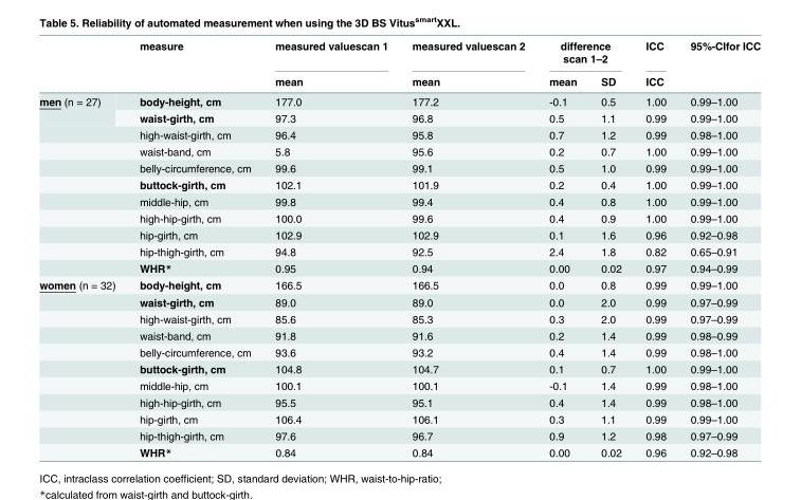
<table><thead><tr><td rowspan="2"></td><td rowspan="2">measure</td><td rowspan="2">measured valuescan 1 mean</td><td rowspan="2">measured valuescan 2 mean</td><td colspan="2">difference scan 1–2</td><td rowspan="2">ICC ICC</td><td rowspan="2">95%-CIfor ICC</td></tr><tr><td>mean</td><td>SD</td></tr></thead><tbody><tr><td rowspan="11">men (n = 27)</td><td>body-height, cm</td><td>177.0</td><td>177.2</td><td>-0.1</td><td>0.5</td><td>1.00</td><td>0.99–1.00</td></tr><tr><td>waist-girth, cm</td><td>97.3</td><td>96.8</td><td>0.5</td><td>1.1</td><td>0.99</td><td>0.99–1.00</td></tr><tr><td>high-waist-girth, cm</td><td>96.4</td><td>95.8</td><td>0.7</td><td>1.2</td><td>0.99</td><td>0.98–1.00</td></tr><tr><td>waist-band, cm</td><td>5.8</td><td>95.6</td><td>0.2</td><td>0.7</td><td>1.00</td><td>0.99–1.00</td></tr><tr><td>belly-circumference, cm</td><td>99.6</td><td>99.1</td><td>0.5</td><td>1.0</td><td>0.99</td><td>0.99–1.00</td></tr><tr><td>buttock-girth, cm</td><td>102.1</td><td>101.9</td><td>0.2</td><td>0.4</td><td>1.00</td><td>0.99–1.00</td></tr><tr><td>middle-hip, cm</td><td>99.8</td><td>99.4</td><td>0.4</td><td>0.8</td><td>1.00</td><td>0.99–1.00</td></tr><tr><td>high-hip-girth, cm</td><td>100.0</td><td>99.6</td><td>0.4</td><td>0.9</td><td>1.00</td><td>0.99–1.00</td></tr><tr><td>hip-girth, cm</td><td>102.9</td><td>102.9</td><td>0.1</td><td>1.6</td><td>0.96</td><td>0.92–0.98</td></tr><tr><td>hip-thigh-girth, cm</td><td>94.8</td><td>92.5</td><td>2.4</td><td>1.8</td><td>0.82</td><td>0.65–0.91</td></tr><tr><td>WHR*</td><td>0.95</td><td>0.94</td><td>0.00</td><td>0.02</td><td>0.97</td><td>0.94–0.99</td></tr><tr><td rowspan="11">women (n = 32)</td><td>body-height, cm</td><td>166.5</td><td>166.5</td><td>0.0</td><td>0.8</td><td>0.99</td><td>0.99–1.00</td></tr><tr><td>waist-girth, cm</td><td>89.0</td><td>89.0</td><td>0.0</td><td>2.0</td><td>0.99</td><td>0.97–0.99</td></tr><tr><td>high-waist-girth, cm</td><td>85.6</td><td>85.3</td><td>0.3</td><td>2.0</td><td>0.99</td><td>0.97–0.99</td></tr><tr><td>waist-band, cm</td><td>91.8</td><td>91.6</td><td>0.2</td><td>1.4</td><td>0.99</td><td>0.98–0.99</td></tr><tr><td>belly-circumference, cm</td><td>93.6</td><td>93.2</td><td>0.4</td><td>1.4</td><td>0.99</td><td>0.98–1.00</td></tr><tr><td>buttock-girth, cm</td><td>104.8</td><td>104.7</td><td>0.1</td><td>0.7</td><td>1.00</td><td>0.99–1.00</td></tr><tr><td>middle-hip, cm</td><td>100.1</td><td>100.1</td><td>-0.1</td><td>1.4</td><td>0.99</td><td>0.98–1.00</td></tr><tr><td>high-hip-girth, cm</td><td>95.5</td><td>95.1</td><td>0.4</td><td>1.4</td><td>0.99</td><td>0.98–1.00</td></tr><tr><td>hip-girth, cm</td><td>106.4</td><td>106.1</td><td>0.3</td><td>1.1</td><td>0.99</td><td>0.99–1.00</td></tr><tr><td>hip-thigh-girth, cm</td><td>97.6</td><td>96.7</td><td>0.9</td><td>1.2</td><td>0.98</td><td>0.97–0.99</td></tr><tr><td>WHR*</td><td>0.84</td><td>0.84</td><td>0.00</td><td>0.02</td><td>0.96</td><td>0.92–0.98</td></tr></tbody></table>